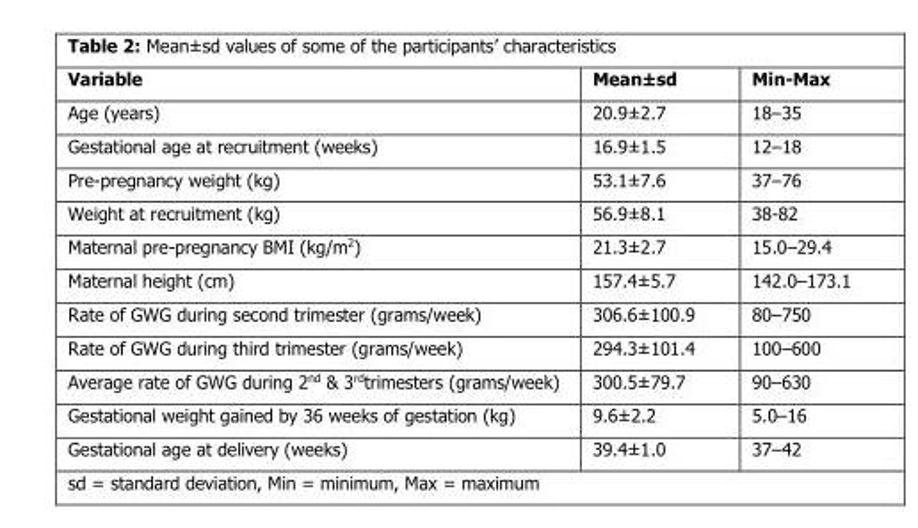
<table><thead><tr><td>Variable</td><td>Mean±sd</td><td>Min-Max</td></tr></thead><tbody><tr><td>Age (years)</td><td>20.9±2.7</td><td>18–35</td></tr><tr><td>Gestational age at recruitment (weeks)</td><td>16.9±1.5</td><td>12–18</td></tr><tr><td>Pre-pregnancy weight (kg)</td><td>53.1±7.6</td><td>37–76</td></tr><tr><td>Weight at recruitment (kg)</td><td>56.9±8.1</td><td>38-82</td></tr><tr><td>Maternal pre-pregnancy BMI (kg/m<sup>2</sup>)</td><td>21.3±2.7</td><td>15.0–29.4</td></tr><tr><td>Maternal height (cm)</td><td>157.4±5.7</td><td>142.0–173.1</td></tr><tr><td>Rate of GWG during second trimester (grams/week)</td><td>306.6±100.9</td><td>80–750</td></tr><tr><td>Rate of GWG during third trimester (grams/week)</td><td>294.3±101.4</td><td>100–600</td></tr><tr><td>Average rate of GWG during 2<sup>nd</sup> &amp; 3<sup>rd</sup>trimesters (grams/week)</td><td>300.5±79.7</td><td>90–630</td></tr><tr><td>Gestational weight gained by 36 weeks of gestation (kg)</td><td>9.6±2.2</td><td>5.0–16</td></tr><tr><td>Gestational age at delivery (weeks)</td><td>39.4±1.0</td><td>37–42</td></tr></tbody></table>